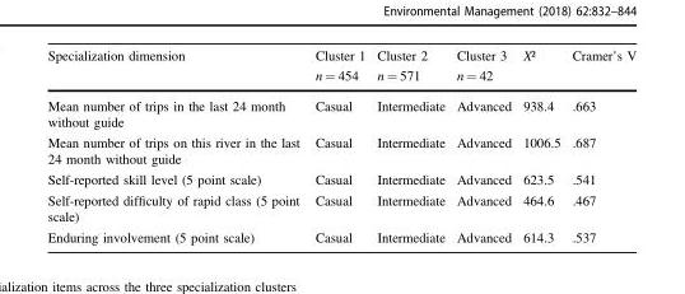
<table><thead><tr><td rowspan="2">Specialization dimension</td><td rowspan="2">Cluster 1 n = 454</td><td rowspan="2">Cluster 2 n = 571</td><td rowspan="2">Cluster 3 n = 42</td><td rowspan="2">X²</td><td rowspan="2">Cramer’s V</td></tr><tr></tr></thead><tbody><tr><td>Mean number of trips in the last 24 month without guide</td><td>Casual</td><td>Intermediate</td><td>Advanced</td><td>938.4</td><td>.663</td></tr><tr><td>Mean number of trips on this river in the last 24 month without guide</td><td>Casual</td><td>Intermediate</td><td>Advanced</td><td>1006.5</td><td>.687</td></tr><tr><td>Self-reported skill level (5 point scale)</td><td>Casual</td><td>Intermediate</td><td>Advanced</td><td>623.5</td><td>.541</td></tr><tr><td>Self-reported difficulty of rapid class (5 point scale)</td><td>Casual</td><td>Intermediate</td><td>Advanced</td><td>464.6</td><td>.467</td></tr><tr><td>Enduring involvement (5 point scale)</td><td>Casual</td><td>Intermediate</td><td>Advanced</td><td>614.3</td><td>.537</td></tr></tbody></table>